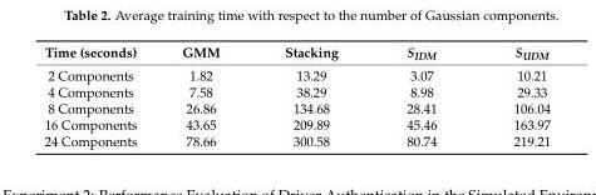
<table><thead><tr><td>Time (seconds)</td><td>GMM</td><td>Stacking</td><td>S<sub>IDM</sub></td><td>S<sub>UDM</sub></td></tr></thead><tbody><tr><td>2 Components</td><td>1.82</td><td>13.29</td><td>3.07</td><td>10.21</td></tr><tr><td>4 Components</td><td>7.58</td><td>38.29</td><td>8.98</td><td>29.33</td></tr><tr><td>8 Components</td><td>26.86</td><td>134.68</td><td>28.41</td><td>106.04</td></tr><tr><td>16 Components</td><td>43.65</td><td>209.89</td><td>45.46</td><td>163.97</td></tr><tr><td>24 Components</td><td>78.66</td><td>300.58</td><td>80.74</td><td>219.21</td></tr></tbody></table>